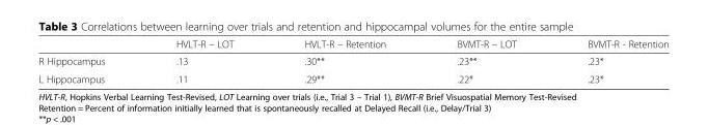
<table><thead><tr><td></td><td>HVLT-R – LOT</td><td>HVLT-R – Retention</td><td>BVMT-R – LOT</td><td>BVMT-R - Retention</td></tr></thead><tbody><tr><td>R Hippocampus</td><td>.13</td><td>.30**</td><td>.23**</td><td>.23*</td></tr><tr><td>L Hippocampus</td><td>.11</td><td>.29**</td><td>.22*</td><td>.23*</td></tr></tbody></table>